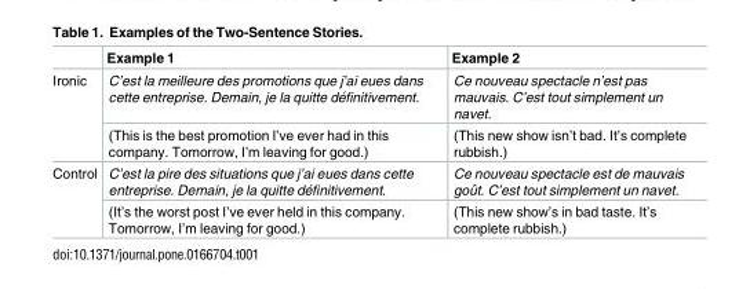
<table><thead><tr><td></td><td>Example 1</td><td>Example 2</td></tr></thead><tbody><tr><td rowspan="2">Ironic</td><td>C’est la meilleure des promotions que j’ai eues dans cette entreprise. Demain, je la quitte de´finitivement.</td><td>Ce nouveau spectacle n’est pas mauvais. C’est tout simplement un navet.</td></tr><tr><td>(This is the best promotion I’ve ever had in this company. Tomorrow, I’m leaving for good.)</td><td>(This new show isn’t bad. It’s complete rubbish.)</td></tr><tr><td rowspan="2">Control</td><td>C’est la pire des situations que j’ai eues dans cette entreprise. Demain, je la quitte de´finitivement.</td><td>Ce nouveau spectacle est de mauvais gouˆt. C’est tout simplement un navet.</td></tr><tr><td>(It’s the worst post I’ve ever held in this company. Tomorrow, I’m leaving for good.)</td><td>(This new show’s in bad taste. It’s complete rubbish.)</td></tr></tbody></table>